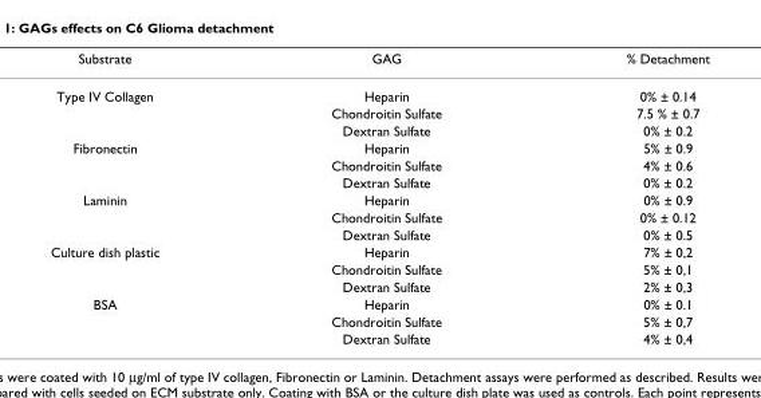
<table><thead><tr><td>Substrate</td><td>GAG</td><td>% Detachment</td></tr></thead><tbody><tr><td rowspan="3">Type IV Collagen</td><td>Heparin</td><td>0% ± 0.14</td></tr><tr><td>Chondroitin Sulfate</td><td>7.5 % ± 0.7</td></tr><tr><td>Dextran Sulfate</td><td>0% ± 0.2</td></tr><tr><td rowspan="3">Fibronectin</td><td>Heparin</td><td>5% ± 0.9</td></tr><tr><td>Chondroitin Sulfate</td><td>4% ± 0.6</td></tr><tr><td>Dextran Sulfate</td><td>0% ± 0.2</td></tr><tr><td rowspan="3">Laminin</td><td>Heparin</td><td>0% ± 0.9</td></tr><tr><td>Chondroitin Sulfate</td><td>0% ± 0.12</td></tr><tr><td>Dextran Sulfate</td><td>0% ± 0.5</td></tr><tr><td rowspan="3">Culture dish plastic</td><td>Heparin</td><td>7% ± 0,2</td></tr><tr><td>Chondroitin Sulfate</td><td>5% ± 0,1</td></tr><tr><td>Dextran Sulfate</td><td>2% ± 0,3</td></tr><tr><td rowspan="3">BSA</td><td>Heparin</td><td>0% ± 0.1</td></tr><tr><td>Chondroitin Sulfate</td><td>5% ± 0,7</td></tr><tr><td>Dextran Sulfate</td><td>4% ± 0,4</td></tr></tbody></table>